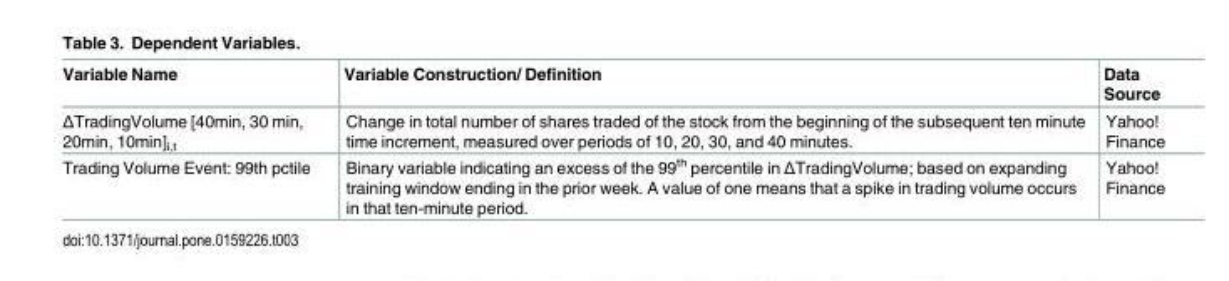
<table><thead><tr><td>Variable Name</td><td>Variable Construction/ Definition</td><td>Data Source</td></tr></thead><tbody><tr><td>ΔTradingVolume [40min, 30 min, 20min, 10min]<sub>i,t</sub></td><td>Change in total number of shares traded of the stock from the beginning of the subsequent ten minute time increment, measured over periods of 10, 20, 30, and 40 minutes.</td><td>Yahoo! Finance</td></tr><tr><td>Trading Volume Event: 99th pctile</td><td>Binary variable indicating an excess of the 99<sup>th</sup> percentile in ΔTradingVolume; based on expanding training window ending in the prior week. A value of one means that a spike in trading volume occurs in that ten-minute period.</td><td>Yahoo! Finance</td></tr></tbody></table>